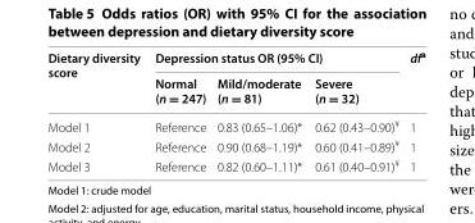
<table><thead><tr><td rowspan="2">Dietary diversity score</td><td colspan="3">Depression status OR (95% CI)</td><td rowspan="2">df<sup>a</sup></td></tr><tr><td>Normal (n = 247)</td><td>Mild/moderate (n = 81)</td><td>Severe (n = 32)</td></tr></thead><tbody><tr><td>Model 1</td><td>Reference</td><td>0.83 (0.65–1.06)*</td><td>0.62 (0.43–0.90)<sup>¥</sup></td><td>1</td></tr><tr><td>Model 2</td><td>Reference</td><td>0.90 (0.68–1.19)*</td><td>0.60 (0.41–0.89)<sup>¥</sup></td><td>1</td></tr><tr><td>Model 3</td><td>Reference</td><td>0.82 (0.60–1.11)*</td><td>0.61 (0.40–0.91)<sup>¥</sup></td><td>1</td></tr></tbody></table>